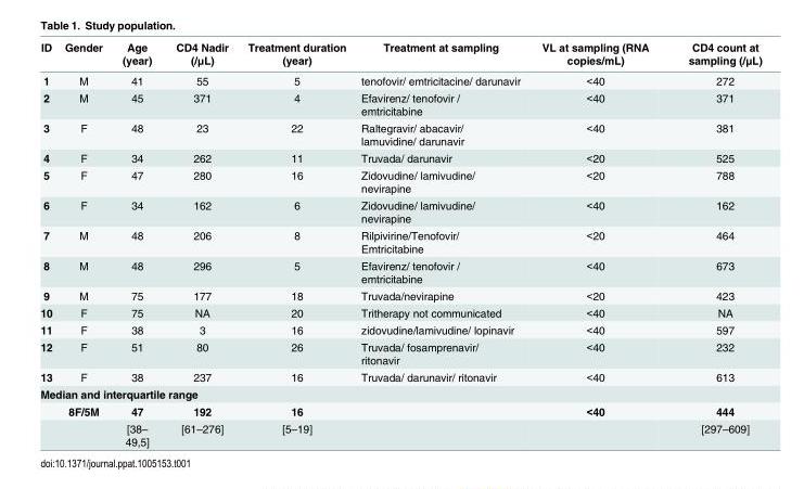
<table><thead><tr><td>ID</td><td>Gender</td><td>Age (year)</td><td>CD4 Nadir (/μL)</td><td>Treatment duration (year)</td><td>Treatment at sampling</td><td>VL at sampling (RNA copies/mL)</td><td>CD4 count at sampling (/μL)</td></tr></thead><tbody><tr><td>1</td><td>M</td><td>41</td><td>55</td><td>5</td><td>tenofovir/ emtricitacine/ darunavir</td><td>&lt;40</td><td>272</td></tr><tr><td>2</td><td>M</td><td>45</td><td>371</td><td>4</td><td>Efavirenz/ tenofovir / emtricitabine</td><td>&lt;40</td><td>371</td></tr><tr><td>3</td><td>F</td><td>48</td><td>23</td><td>22</td><td>Raltegravir/ abacavir/ lamuvidine/ darunavir</td><td>&lt;40</td><td>381</td></tr><tr><td>4</td><td>F</td><td>34</td><td>262</td><td>11</td><td>Truvada/ darunavir</td><td>&lt;20</td><td>525</td></tr><tr><td>5</td><td>F</td><td>47</td><td>280</td><td>16</td><td>Zidovudine/ lamivudine/ nevirapine</td><td>&lt;20</td><td>788</td></tr><tr><td>6</td><td>F</td><td>34</td><td>162</td><td>6</td><td>Zidovudine/ lamivudine/ nevirapine</td><td>&lt;40</td><td>162</td></tr><tr><td>7</td><td>M</td><td>48</td><td>206</td><td>8</td><td>Rilpivirine/Tenofovir/ Emtricitabine</td><td>&lt;20</td><td>464</td></tr><tr><td>8</td><td>M</td><td>48</td><td>296</td><td>5</td><td>Efavirenz/ tenofovir / emtricitabine</td><td>&lt;40</td><td>673</td></tr><tr><td>9</td><td>M</td><td>75</td><td>177</td><td>18</td><td>Truvada/nevirapine</td><td>&lt;20</td><td>423</td></tr><tr><td>10</td><td>F</td><td>75</td><td>NA</td><td>20</td><td>Tritherapy not communicated</td><td>&lt;40</td><td>NA</td></tr><tr><td>11</td><td>F</td><td>38</td><td>3</td><td>16</td><td>zidovudine/lamivudine/ lopinavir</td><td>&lt;40</td><td>597</td></tr><tr><td>12</td><td>F</td><td>51</td><td>80</td><td>26</td><td>Truvada/ fosamprenavir/ ritonavir</td><td>&lt;40</td><td>232</td></tr><tr><td>13</td><td>F</td><td>38</td><td>237</td><td>16</td><td>Truvada/ darunavir/ ritonavir</td><td>&lt;40</td><td>613</td></tr><tr><td colspan="8">Median and interquartile range</td></tr><tr><td></td><td>8F/5M</td><td>47</td><td>192</td><td>16</td><td></td><td>&lt;40</td><td>444</td></tr><tr><td></td><td></td><td>[38– 49,5]</td><td>[61–276]</td><td>[5–19]</td><td></td><td></td><td>[297–609]</td></tr></tbody></table>